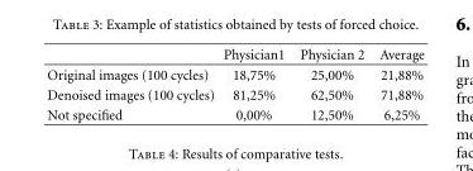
<table><thead><tr><td></td><td>Physician1</td><td>Physician 2</td><td>Average</td></tr></thead><tbody><tr><td>Original images (100 cycles)</td><td>18,75%</td><td>25,00%</td><td>21,88%</td></tr><tr><td>Denoised images (100 cycles)</td><td>81,25%</td><td>62,50%</td><td>71,88%</td></tr><tr><td>Not specified</td><td>0,00%</td><td>12,50%</td><td>6,25%</td></tr></tbody></table>